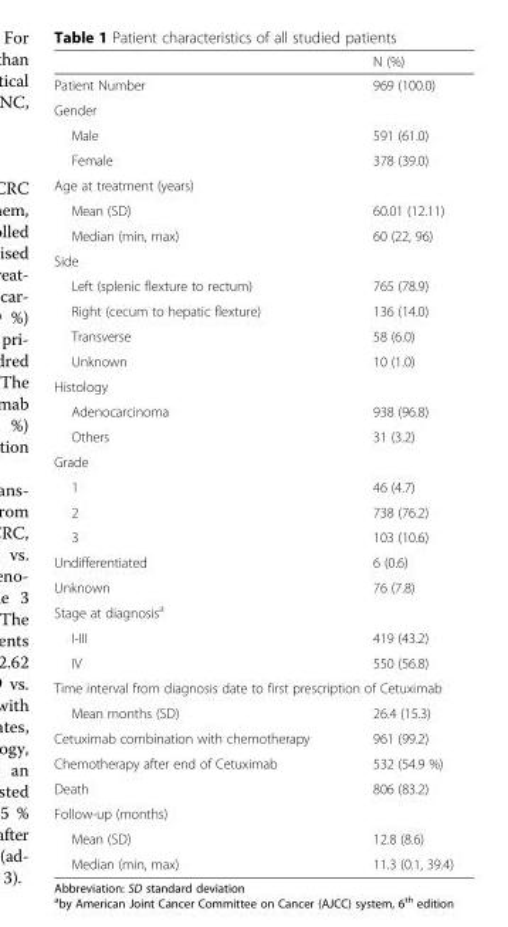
<table><thead><tr><td></td><td>N (%)</td></tr></thead><tbody><tr><td>Patient Number</td><td>969 (100.0)</td></tr><tr><td colspan="2">Gender</td></tr><tr><td>Male</td><td>591 (61.0)</td></tr><tr><td>Female</td><td>378 (39.0)</td></tr><tr><td colspan="2">Age at treatment (years)</td></tr><tr><td>Mean (SD)</td><td>60.01 (12.11)</td></tr><tr><td>Median (min, max)</td><td>60 (22, 96)</td></tr><tr><td colspan="2">Side</td></tr><tr><td>Left (splenic flexture to rectum)</td><td>765 (78.9)</td></tr><tr><td>Right (cecum to hepatic flexture)</td><td>136 (14.0)</td></tr><tr><td>Transverse</td><td>58 (6.0)</td></tr><tr><td>Unknown</td><td>10 (1.0)</td></tr><tr><td colspan="2">Histology</td></tr><tr><td>Adenocarcinoma</td><td>938 (96.8)</td></tr><tr><td>Others</td><td>31 (3.2)</td></tr><tr><td colspan="2">Grade</td></tr><tr><td>1</td><td>46 (4.7)</td></tr><tr><td>2</td><td>738 (76.2)</td></tr><tr><td>3</td><td>103 (10.6)</td></tr><tr><td>Undifferentiated</td><td>6 (0.6)</td></tr><tr><td>Unknown</td><td>76 (7.8)</td></tr><tr><td colspan="2">Stage at diagnosis<sup>a</sup></td></tr><tr><td>I-III</td><td>419 (43.2)</td></tr><tr><td>IV</td><td>550 (56.8)</td></tr><tr><td colspan="2">Time interval from diagnosis date to first prescription of Cetuximab</td></tr><tr><td>Mean months (SD)</td><td>26.4 (15.3)</td></tr><tr><td>Cetuximab combination with chemotherapy</td><td>961 (99.2)</td></tr><tr><td>Chemotherapy after end of Cetuximab</td><td>532 (54.9 %)</td></tr><tr><td>Death</td><td>806 (83.2)</td></tr><tr><td colspan="2">Follow-up (months)</td></tr><tr><td>Mean (SD)</td><td>12.8 (8.6)</td></tr><tr><td>Median (min, max)</td><td>11.3 (0.1, 39.4)</td></tr></tbody></table>